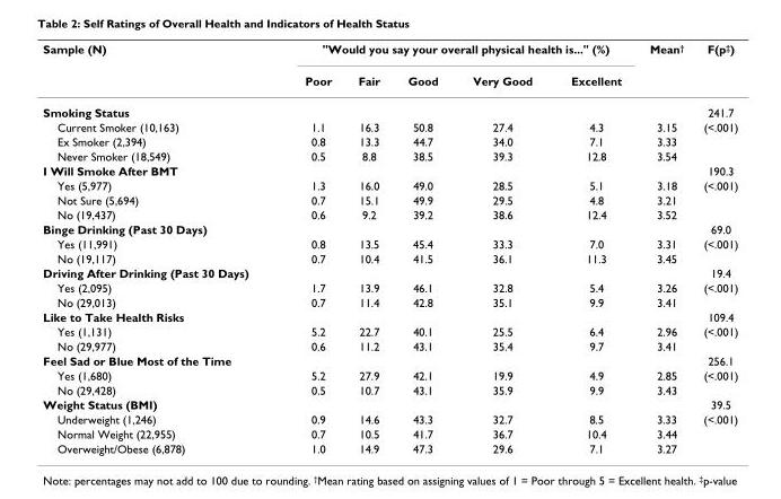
<table><thead><tr><td rowspan="2">Sample (N)</td><td colspan="5">&quot;Would you say your overall physical health is...&quot; (%)</td><td rowspan="2">Mean<sup>†</sup></td><td rowspan="2">F(p‡)</td></tr><tr><td>Poor</td><td>Fair</td><td>Good</td><td>Very Good</td><td>Excellent</td></tr></thead><tbody><tr><td>Smoking Status</td><td></td><td></td><td></td><td></td><td></td><td></td><td>241.7</td></tr><tr><td>Current Smoker (10,163)</td><td>1.1</td><td>16.3</td><td>50.8</td><td>27.4</td><td>4.3</td><td>3.15</td><td>(&lt;.001)</td></tr><tr><td>Ex Smoker (2,394)</td><td>0.8</td><td>13.3</td><td>44.7</td><td>34.0</td><td>7.1</td><td>3.33</td><td></td></tr><tr><td>Never Smoker (18,549)</td><td>0.5</td><td>8.8</td><td>38.5</td><td>39.3</td><td>12.8</td><td>3.54</td><td></td></tr><tr><td>I Will Smoke After BMT</td><td></td><td></td><td></td><td></td><td></td><td></td><td>190.3</td></tr><tr><td>Yes (5,977)</td><td>1.3</td><td>16.0</td><td>49.0</td><td>28.5</td><td>5.1</td><td>3.18</td><td>(&lt;.001)</td></tr><tr><td>Not Sure (5,694)</td><td>0.7</td><td>15.1</td><td>49.9</td><td>29.5</td><td>4.8</td><td>3.21</td><td></td></tr><tr><td>No (19,437)</td><td>0.6</td><td>9.2</td><td>39.2</td><td>38.6</td><td>12.4</td><td>3.52</td><td></td></tr><tr><td>Binge Drinking (Past 30 Days)</td><td></td><td></td><td></td><td></td><td></td><td></td><td>69.0</td></tr><tr><td>Yes (11,991)</td><td>0.8</td><td>13.5</td><td>45.4</td><td>33.3</td><td>7.0</td><td>3.31</td><td>(&lt;.001)</td></tr><tr><td>No (19,117)</td><td>0.7</td><td>10.4</td><td>41.5</td><td>36.1</td><td>11.3</td><td>3.45</td><td></td></tr><tr><td>Driving After Drinking (Past 30 Days)</td><td></td><td></td><td></td><td></td><td></td><td></td><td>19.4</td></tr><tr><td>Yes (2,095)</td><td>1.7</td><td>13.9</td><td>46.1</td><td>32.8</td><td>5.4</td><td>3.26</td><td>(&lt;.001)</td></tr><tr><td>No (29,013)</td><td>0.7</td><td>11.4</td><td>42.8</td><td>35.1</td><td>9.9</td><td>3.41</td><td></td></tr><tr><td>Like to Take Health Risks</td><td></td><td></td><td></td><td></td><td></td><td></td><td>109.4</td></tr><tr><td>Yes (1,131)</td><td>5.2</td><td>22.7</td><td>40.1</td><td>25.5</td><td>6.4</td><td>2.96</td><td>(&lt;.001)</td></tr><tr><td>No (29,977)</td><td>0.6</td><td>11.2</td><td>43.1</td><td>35.4</td><td>9.7</td><td>3.41</td><td></td></tr><tr><td>Feel Sad or Blue Most of the Time</td><td></td><td></td><td></td><td></td><td></td><td></td><td>256.1</td></tr><tr><td>Yes (1,680)</td><td>5.2</td><td>27.9</td><td>42.1</td><td>19.9</td><td>4.9</td><td>2.85</td><td>(&lt;.001)</td></tr><tr><td>No (29,428)</td><td>0.5</td><td>10.7</td><td>43.1</td><td>35.9</td><td>9.9</td><td>3.43</td><td></td></tr><tr><td>Weight Status (BMI)</td><td></td><td></td><td></td><td></td><td></td><td></td><td>39.5</td></tr><tr><td>Underweight (1,246)</td><td>0.9</td><td>14.6</td><td>43.3</td><td>32.7</td><td>8.5</td><td>3.33</td><td>(&lt;.001)</td></tr><tr><td>Normal Weight (22,955)</td><td>0.7</td><td>10.5</td><td>41.7</td><td>36.7</td><td>10.4</td><td>3.44</td><td></td></tr><tr><td>Overweight/Obese (6,878)</td><td>1.0</td><td>14.9</td><td>47.3</td><td>29.6</td><td>7.1</td><td>3.27</td><td></td></tr></tbody></table>